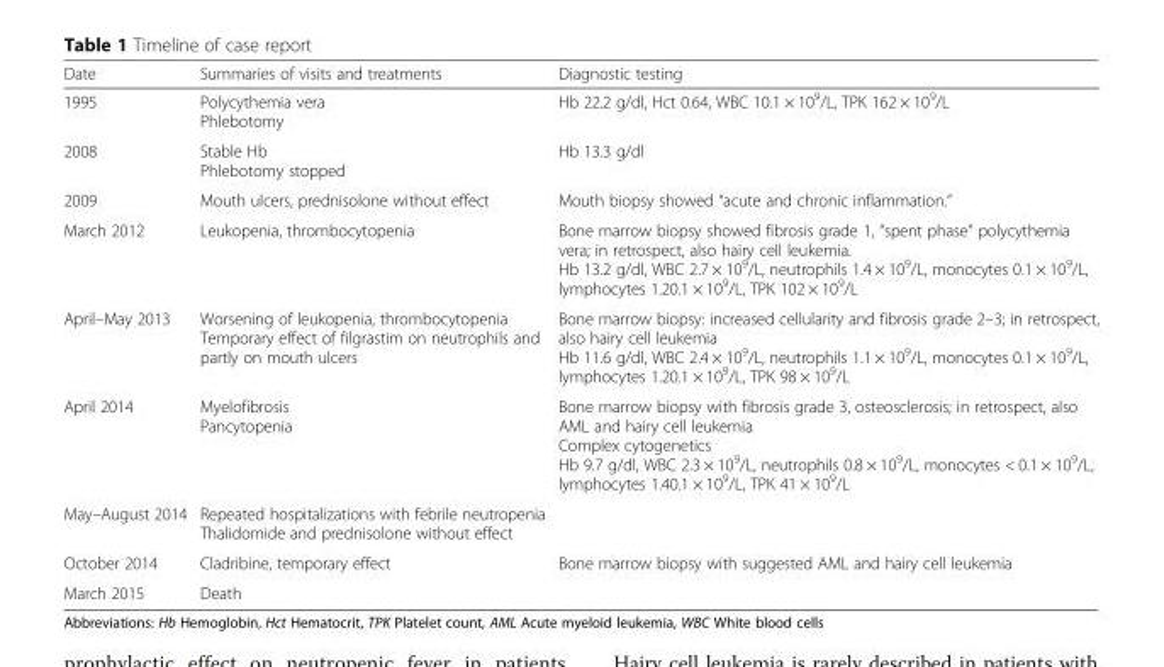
<table><thead><tr><td>Date</td><td>Summaries of visits and treatments</td><td>Diagnostic testing</td></tr></thead><tbody><tr><td>1995</td><td>Polycythemia vera Phlebotomy</td><td>Hb 22.2 g/dl, Hct 0.64, WBC 10.1 × 10<sup>9</sup>/L, TPK 162 × 10<sup>9</sup>/L</td></tr><tr><td>2008</td><td>Stable Hb Phlebotomy stopped</td><td>Hb 13.3 g/dl</td></tr><tr><td>2009</td><td>Mouth ulcers, prednisolone without effect</td><td>Mouth biopsy showed “acute and chronic inflammation.”</td></tr><tr><td>March 2012</td><td>Leukopenia, thrombocytopenia</td><td>Bone marrow biopsy showed fibrosis grade 1, “spent phase” polycythemia vera; in retrospect, also hairy cell leukemia. Hb 13.2 g/dl, WBC 2.7 × 10<sup>9</sup>/L, neutrophils 1.4 × 10<sup>9</sup>/L, monocytes 0.1 × 10<sup>9</sup>/L, lymphocytes 1.20.1 × 10<sup>9</sup>/L, TPK 102 × 10<sup>9</sup>/L</td></tr><tr><td>April–May 2013</td><td>Worsening of leukopenia, thrombocytopenia Temporary effect of filgrastim on neutrophils and partly on mouth ulcers</td><td>Bone marrow biopsy: increased cellularity and fibrosis grade 2–3; in retrospect, also hairy cell leukemia Hb 11.6 g/dl, WBC 2.4 × 10<sup>9</sup>/L, neutrophils 1.1 × 10<sup>9</sup>/L, monocytes 0.1 × 10<sup>9</sup>/L, lymphocytes 1.20.1 × 10<sup>9</sup>/L, TPK 98 × 10<sup>9</sup>/L</td></tr><tr><td>April 2014</td><td>Myelofibrosis Pancytopenia</td><td>Bone marrow biopsy with fibrosis grade 3, osteosclerosis; in retrospect, also AML and hairy cell leukemia Complex cytogenetics Hb 9.7 g/dl, WBC 2.3 × 10<sup>9</sup>/L, neutrophils 0.8 × 10<sup>9</sup>/L, monocytes &lt; 0.1 × 10<sup>9</sup>/L, lymphocytes 1.40.1 × 10<sup>9</sup>/L, TPK 41 × 10<sup>9</sup>/L</td></tr><tr><td>May–August 2014</td><td>Repeated hospitalizations with febrile neutropenia Thalidomide and prednisolone without effect</td><td></td></tr><tr><td>October 2014</td><td>Cladribine, temporary effect</td><td>Bone marrow biopsy with suggested AML and hairy cell leukemia</td></tr><tr><td>March 2015</td><td>Death</td><td></td></tr></tbody></table>